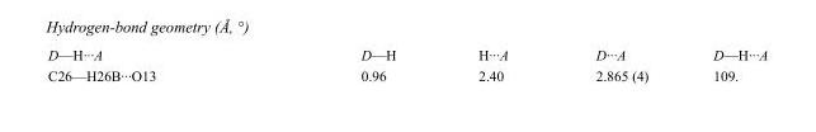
<table><tbody><tr><td>D—H···A</td><td>D—H</td><td>H···A</td><td>D···A</td><td>D—H···A</td></tr><tr><td>C26—H26B···O13</td><td>0.96</td><td>2.40</td><td>2.865 (4)</td><td>109.</td></tr></tbody></table>